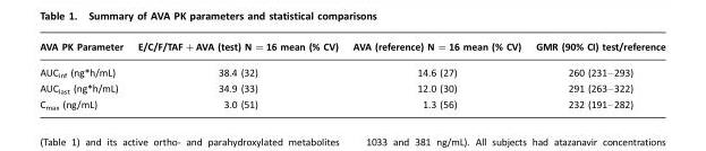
<table><thead><tr><td>AVA PK Parameter</td><td>E/C/F/TAF+AVA (test) N =16 mean (% CV)</td><td>AVA (reference) N =16 mean (% CV)</td><td>GMR (90% CI) test/reference</td></tr></thead><tbody><tr><td>AUCinf (ng*h/mL)</td><td>38.4 (32)</td><td>14.6 (27)</td><td>260 (231–293)</td></tr><tr><td>AUClast (ng*h/mL)</td><td>34.9 (33)</td><td>12.0 (30)</td><td>291 (263–322)</td></tr><tr><td>Cmax (ng/mL)</td><td>3.0 (51)</td><td>1.3 (56)</td><td>232 (191–282)</td></tr></tbody></table>